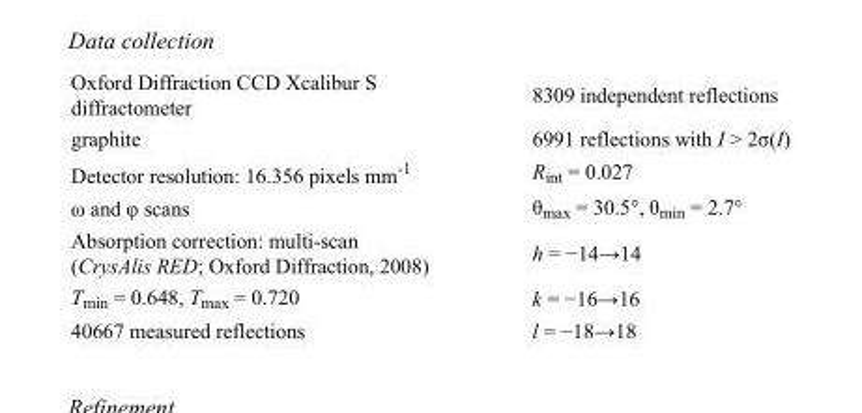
<table><tbody><tr><td>Oxford Diffraction CCD Xcalibur S diffractometer</td><td>8309 independent reflections</td></tr><tr><td>graphite</td><td>6991 reflections with I &gt; 2σ(I)</td></tr><tr><td>Detector resolution: 16.356 pixels mm<sup>-1</sup></td><td>R<sub>int</sub> = 0.027</td></tr><tr><td>ω and φ scans</td><td>θ<sub>max</sub> = 30.5°, θ<sub>min</sub> = 2.7°</td></tr><tr><td>Absorption correction: multi-scan (CrysAlis RED; Oxford Diffraction, 2008)</td><td>h = −14→14</td></tr><tr><td>T<sub>min</sub> = 0.648, T<sub>max</sub> = 0.720</td><td>k = −16→16</td></tr><tr><td>40667 measured reflections</td><td>l = −18→18</td></tr></tbody></table>